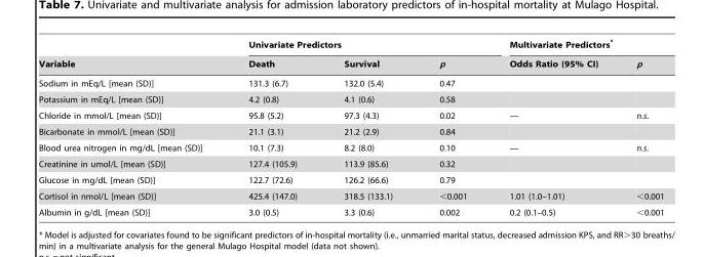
<table><thead><tr><td rowspan="2">Variable</td><td colspan="3">Univariate Predictors</td><td colspan="2">Multivariate Predictors*</td></tr><tr><td>Death</td><td>Survival</td><td>p</td><td>Odds Ratio (95% CI)</td><td>p</td></tr></thead><tbody><tr><td>Sodium in mEq/L [mean (SD)]</td><td>131.3 (6.7)</td><td>132.0 (5.4)</td><td>0.47</td><td></td><td></td></tr><tr><td>Potassium in mEq/L [mean (SD)]</td><td>4.2 (0.8)</td><td>4.1 (0.6)</td><td>0.58</td><td></td><td></td></tr><tr><td>Chloride in mmol/L [mean (SD)]</td><td>95.8 (5.2)</td><td>97.3 (4.3)</td><td>0.02</td><td>—</td><td>n.s.</td></tr><tr><td>Bicarbonate in mmol/L [mean (SD)]</td><td>21.1 (3.1)</td><td>21.2 (2.9)</td><td>0.84</td><td></td><td></td></tr><tr><td>Blood urea nitrogen in mg/dL [mean (SD)]</td><td>10.1 (7.3)</td><td>8.2 (8.0)</td><td>0.10</td><td>—</td><td>n.s.</td></tr><tr><td>Creatinine in umol/L [mean (SD)]</td><td>127.4 (105.9)</td><td>113.9 (85.6)</td><td>0.32</td><td></td><td></td></tr><tr><td>Glucose in mg/dL [mean (SD)]</td><td>122.7 (72.6)</td><td>126.2 (66.6)</td><td>0.79</td><td></td><td></td></tr><tr><td>Cortisol in nmol/L [mean (SD)]</td><td>425.4 (147.0)</td><td>318.5 (133.1)</td><td>&lt;0.001</td><td>1.01 (1.0–1.01)</td><td>&lt;0.001</td></tr><tr><td>Albumin in g/dL [mean (SD)]</td><td>3.0 (0.5)</td><td>3.3 (0.6)</td><td>0.002</td><td>0.2 (0.1–0.5)</td><td>&lt;0.001</td></tr></tbody></table>